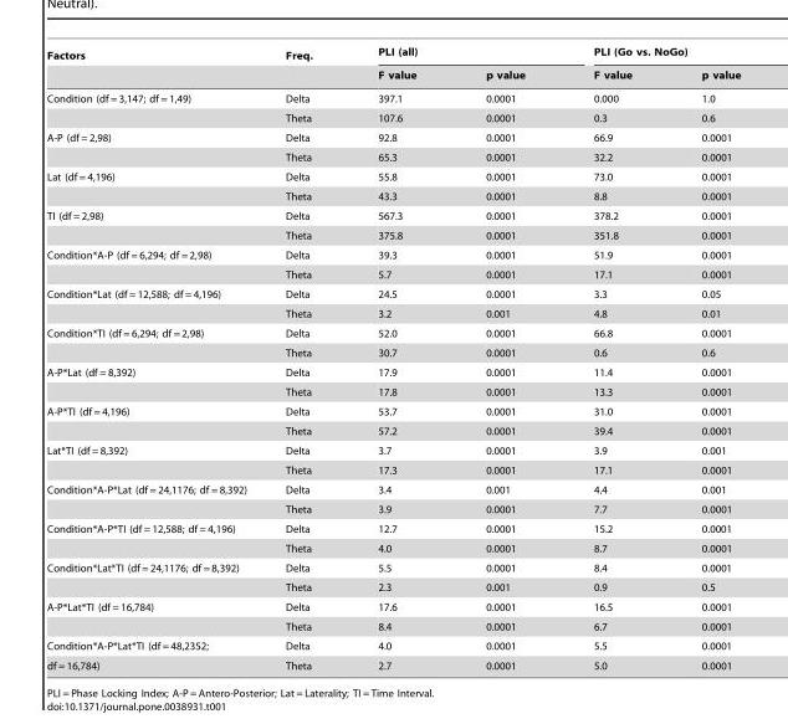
<table><thead><tr><td rowspan="2">Factors</td><td rowspan="2">Freq.</td><td colspan="2">PLI (all)</td><td colspan="2">PLI (Go vs. NoGo)</td></tr><tr><td>F value</td><td>p value</td><td>F value</td><td>p value</td></tr></thead><tbody><tr><td rowspan="2">Condition (df = 3,147; df = 1,49)</td><td>Delta</td><td>397.1</td><td>0.0001</td><td>0.000</td><td>1.0</td></tr><tr><td>Theta</td><td>107.6</td><td>0.0001</td><td>0.3</td><td>0.6</td></tr><tr><td rowspan="2">A-P (df = 2,98)</td><td>Delta</td><td>92.8</td><td>0.0001</td><td>66.9</td><td>0.0001</td></tr><tr><td>Theta</td><td>65.3</td><td>0.0001</td><td>32.2</td><td>0.0001</td></tr><tr><td rowspan="2">Lat (df = 4,196)</td><td>Delta</td><td>55.8</td><td>0.0001</td><td>73.0</td><td>0.0001</td></tr><tr><td>Theta</td><td>43.3</td><td>0.0001</td><td>8.8</td><td>0.0001</td></tr><tr><td rowspan="2">TI (df = 2,98)</td><td>Delta</td><td>567.3</td><td>0.0001</td><td>378.2</td><td>0.0001</td></tr><tr><td>Theta</td><td>375.8</td><td>0.0001</td><td>351.8</td><td>0.0001</td></tr><tr><td rowspan="2">Condition*A-P (df = 6,294; df = 2,98)</td><td>Delta</td><td>39.3</td><td>0.0001</td><td>51.9</td><td>0.0001</td></tr><tr><td>Theta</td><td>5.7</td><td>0.0001</td><td>17.1</td><td>0.0001</td></tr><tr><td rowspan="2">Condition*Lat (df = 12,588; df = 4,196)</td><td>Delta</td><td>24.5</td><td>0.0001</td><td>3.3</td><td>0.05</td></tr><tr><td>Theta</td><td>3.2</td><td>0.001</td><td>4.8</td><td>0.01</td></tr><tr><td rowspan="2">Condition*TI (df = 6,294; df = 2,98)</td><td>Delta</td><td>52.0</td><td>0.0001</td><td>66.8</td><td>0.0001</td></tr><tr><td>Theta</td><td>30.7</td><td>0.0001</td><td>0.6</td><td>0.6</td></tr><tr><td rowspan="2">A-P*Lat (df = 8,392)</td><td>Delta</td><td>17.9</td><td>0.0001</td><td>11.4</td><td>0.0001</td></tr><tr><td>Theta</td><td>17.8</td><td>0.0001</td><td>13.3</td><td>0.0001</td></tr><tr><td rowspan="2">A-P*TI (df = 4,196)</td><td>Delta</td><td>53.7</td><td>0.0001</td><td>31.0</td><td>0.0001</td></tr><tr><td>Theta</td><td>57.2</td><td>0.0001</td><td>39.4</td><td>0.0001</td></tr><tr><td rowspan="2">Lat*TI (df = 8,392)</td><td>Delta</td><td>3.7</td><td>0.0001</td><td>3.9</td><td>0.001</td></tr><tr><td>Theta</td><td>17.3</td><td>0.0001</td><td>17.1</td><td>0.0001</td></tr><tr><td rowspan="2">Condition*A-P*Lat (df = 24,1176; df = 8,392)</td><td>Delta</td><td>3.4</td><td>0.001</td><td>4.4</td><td>0.001</td></tr><tr><td>Theta</td><td>3.9</td><td>0.0001</td><td>7.7</td><td>0.0001</td></tr><tr><td rowspan="2">Condition*A-P*TI (df = 12,588; df = 4,196)</td><td>Delta</td><td>12.7</td><td>0.0001</td><td>15.2</td><td>0.0001</td></tr><tr><td>Theta</td><td>4.0</td><td>0.0001</td><td>8.7</td><td>0.0001</td></tr><tr><td rowspan="2">Condition*Lat*TI (df = 24,1176; df = 8,392)</td><td>Delta</td><td>5.5</td><td>0.0001</td><td>8.4</td><td>0.0001</td></tr><tr><td>Theta</td><td>2.3</td><td>0.001</td><td>0.9</td><td>0.5</td></tr><tr><td rowspan="2">A-P*Lat*TI (df = 16,784)</td><td>Delta</td><td>17.6</td><td>0.0001</td><td>16.5</td><td>0.0001</td></tr><tr><td>Theta</td><td>8.4</td><td>0.0001</td><td>6.7</td><td>0.0001</td></tr><tr><td>Condition*A-P*Lat*TI (df = 48,2352;</td><td>Delta</td><td>4.0</td><td>0.0001</td><td>5.5</td><td>0.0001</td></tr><tr><td>df = 16,784)</td><td>Theta</td><td>2.7</td><td>0.0001</td><td>5.0</td><td>0.0001</td></tr></tbody></table>